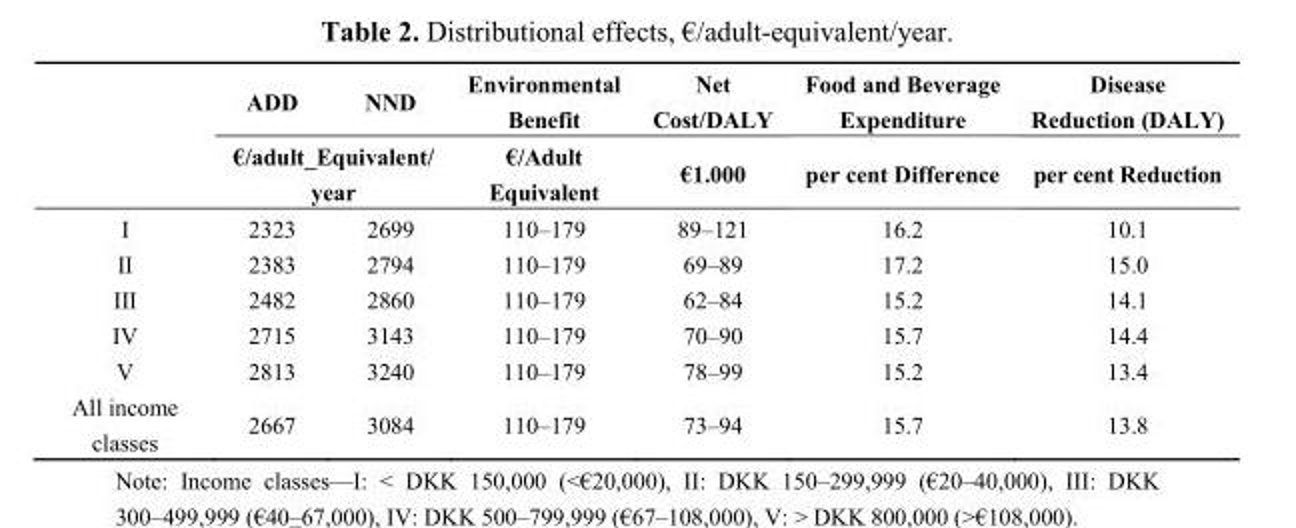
<table><thead><tr><td rowspan="2"></td><td>ADD</td><td>NND</td><td rowspan="2">Environmental Benefit €/Adult Equivalent</td><td rowspan="2">Net Cost/DALY €1.000</td><td rowspan="2">Food and Beverage Expenditure per cent Difference</td><td rowspan="2">Disease Reduction (DALY) per cent Reduction</td></tr><tr><td colspan="2">€/adult_Equivalent/ year</td></tr></thead><tbody><tr><td>I</td><td>2323</td><td>2699</td><td>110–179</td><td>89–121</td><td>16.2</td><td>10.1</td></tr><tr><td>II</td><td>2383</td><td>2794</td><td>110–179</td><td>69–89</td><td>17.2</td><td>15.0</td></tr><tr><td>III</td><td>2482</td><td>2860</td><td>110–179</td><td>62–84</td><td>15.2</td><td>14.1</td></tr><tr><td>IV</td><td>2715</td><td>3143</td><td>110–179</td><td>70–90</td><td>15.7</td><td>14.4</td></tr><tr><td>V</td><td>2813</td><td>3240</td><td>110–179</td><td>78–99</td><td>15.2</td><td>13.4</td></tr><tr><td>All income classes</td><td>2667</td><td>3084</td><td>110–179</td><td>73–94</td><td>15.7</td><td>13.8</td></tr></tbody></table>